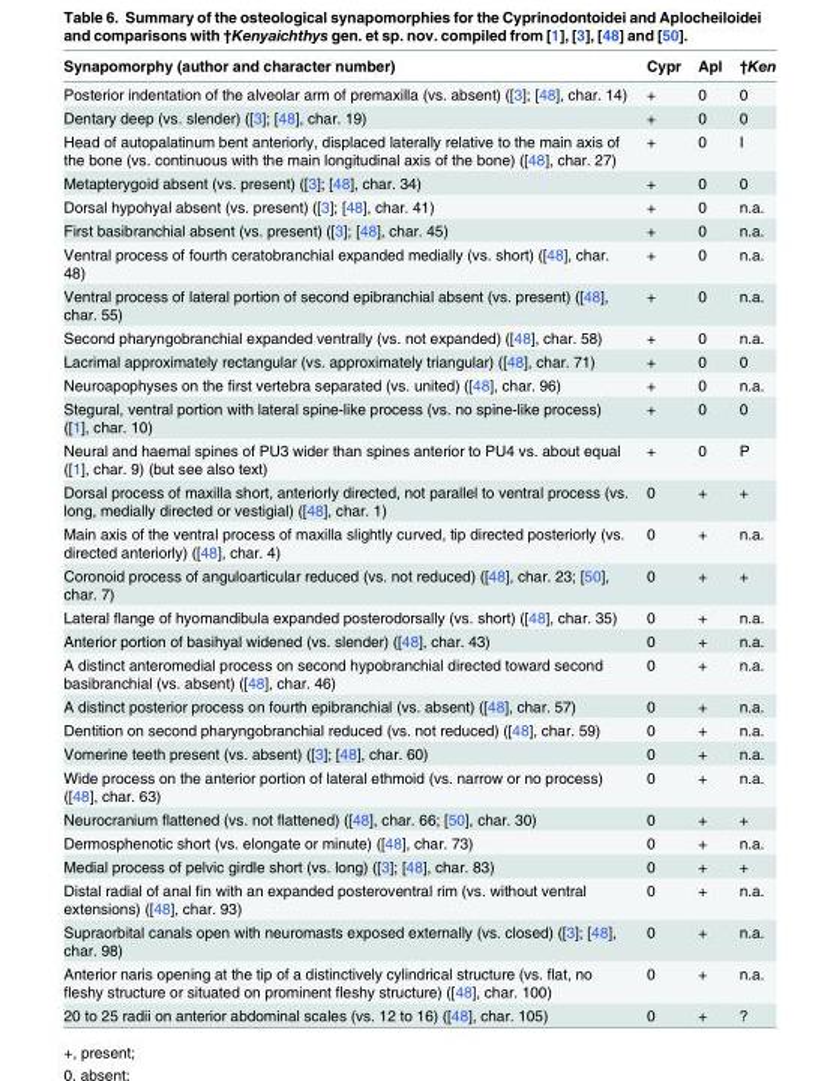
<table><thead><tr><td>Synapomorphy (author and character number)</td><td>Cypr</td><td>Apl</td><td>†Ken</td></tr></thead><tbody><tr><td>Posterior indentation of the alveolar arm of premaxilla (vs. absent) ([3]; [48], char. 14)</td><td>+</td><td>0</td><td>0</td></tr><tr><td>Dentary deep (vs. slender) ([3]; [48], char. 19)</td><td>+</td><td>0</td><td>0</td></tr><tr><td>Head of autopalatinum bent anteriorly, displaced laterally relative to the main axis of the bone (vs. continuous with the main longitudinal axis of the bone) ([48], char. 27)</td><td>+</td><td>0</td><td>I</td></tr><tr><td>Metapterygoid absent (vs. present) ([3]; [48], char. 34)</td><td>+</td><td>0</td><td>0</td></tr><tr><td>Dorsal hypohyal absent (vs. present) ([3]; [48], char. 41)</td><td>+</td><td>0</td><td>n.a.</td></tr><tr><td>First basibranchial absent (vs. present) ([3]; [48], char. 45)</td><td>+</td><td>0</td><td>n.a.</td></tr><tr><td>Ventral process of fourth ceratobranchial expanded medially (vs. short) ([48], char. 48)</td><td>+</td><td>0</td><td>n.a.</td></tr><tr><td>Ventral process of lateral portion of second epibranchial absent (vs. present) ([48], char. 55)</td><td>+</td><td>0</td><td>n.a.</td></tr><tr><td>Second pharyngobranchial expanded ventrally (vs. not expanded) ([48], char. 58)</td><td>+</td><td>0</td><td>n.a.</td></tr><tr><td>Lacrimal approximately rectangular (vs. approximately triangular) ([48], char. 71)</td><td>+</td><td>0</td><td>0</td></tr><tr><td>Neuroapophyses on the first vertebra separated (vs. united) ([48], char. 96)</td><td>+</td><td>0</td><td>n.a.</td></tr><tr><td>Stegural, ventral portion with lateral spine-like process (vs. no spine-like process) ([1], char. 10)</td><td>+</td><td>0</td><td>0</td></tr><tr><td>Neural and haemal spines of PU3 wider than spines anterior to PU4 vs. about equal ([1], char. 9) (but see also text)</td><td>+</td><td>0</td><td>P</td></tr><tr><td>Dorsal process of maxilla short, anteriorly directed, not parallel to ventral process (vs. long, medially directed or vestigial) ([48], char. 1)</td><td>0</td><td>+</td><td>+</td></tr><tr><td>Main axis of the ventral process of maxilla slightly curved, tip directed posteriorly (vs. directed anteriorly) ([48], char. 4)</td><td>0</td><td>+</td><td>n.a.</td></tr><tr><td>Coronoid process of anguloarticular reduced (vs. not reduced) ([48], char. 23; [50], char. 7)</td><td>0</td><td>+</td><td>+</td></tr><tr><td>Lateral flange of hyomandibula expanded posterodorsally (vs. short) ([48], char. 35)</td><td>0</td><td>+</td><td>n.a.</td></tr><tr><td>Anterior portion of basihyal widened (vs. slender) ([48], char. 43)</td><td>0</td><td>+</td><td>n.a.</td></tr><tr><td>A distinct anteromedial process on second hypobranchial directed toward second basibranchial (vs. absent) ([48], char. 46)</td><td>0</td><td>+</td><td>n.a.</td></tr><tr><td>A distinct posterior process on fourth epibranchial (vs. absent) ([48], char. 57)</td><td>0</td><td>+</td><td>n.a.</td></tr><tr><td>Dentition on second pharyngobranchial reduced (vs. not reduced) ([48], char. 59)</td><td>0</td><td>+</td><td>n.a.</td></tr><tr><td>Vomerine teeth present (vs. absent) ([3]; [48], char. 60)</td><td>0</td><td>+</td><td>n.a.</td></tr><tr><td>Wide process on the anterior portion of lateral ethmoid (vs. narrow or no process) ([48], char. 63)</td><td>0</td><td>+</td><td>n.a.</td></tr><tr><td>Neurocranium flattened (vs. not flattened) ([48], char. 66; [50], char. 30)</td><td>0</td><td>+</td><td>+</td></tr><tr><td>Dermosphenotic short (vs. elongate or minute) ([48], char. 73)</td><td>0</td><td>+</td><td>n.a.</td></tr><tr><td>Medial process of pelvic girdle short (vs. long) ([3]; [48], char. 83)</td><td>0</td><td>+</td><td>+</td></tr><tr><td>Distal radial of anal fin with an expanded posteroventral rim (vs. without ventral extensions) ([48], char. 93)</td><td>0</td><td>+</td><td>n.a.</td></tr><tr><td>Supraorbital canals open with neuromasts exposed externally (vs. closed) ([3]; [48], char. 98)</td><td>0</td><td>+</td><td>n.a.</td></tr><tr><td>Anterior naris opening at the tip of a distinctively cylindrical structure (vs. flat, no fleshy structure or situated on prominent fleshy structure) ([48], char. 100)</td><td>0</td><td>+</td><td>n.a.</td></tr><tr><td>20 to 25 radii on anterior abdominal scales (vs. 12 to 16) ([48], char. 105)</td><td>0</td><td>+</td><td>?</td></tr></tbody></table>